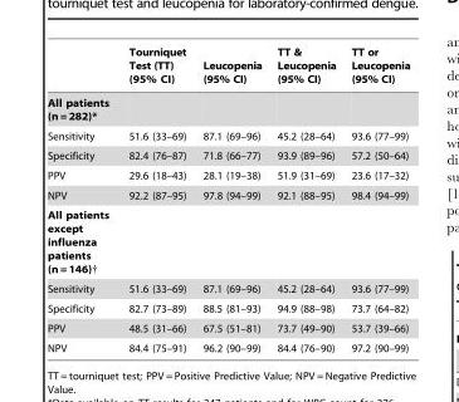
<table><thead><tr><td></td><td>Tourniquet Test (TT) (95% CI)</td><td>Leucopenia (95% CI)</td><td>TT &amp; Leucopenia (95% CI)</td><td>TT or Leucopenia (95% CI)</td></tr></thead><tbody><tr><td colspan="5">All patients (n = 282)*</td></tr><tr><td>Sensitivity</td><td>51.6 (33–69)</td><td>87.1 (69–96)</td><td>45.2 (28–64)</td><td>93.6 (77–99)</td></tr><tr><td>Specificity</td><td>82.4 (76–87)</td><td>71.8 (66–77)</td><td>93.9 (89–96)</td><td>57.2 (50–64)</td></tr><tr><td>PPV</td><td>29.6 (18–43)</td><td>28.1 (19–38)</td><td>51.9 (31–69)</td><td>23.6 (17–32)</td></tr><tr><td>NPV</td><td>92.2 (87–95)</td><td>97.8 (94–99)</td><td>92.1 (88–95)</td><td>98.4 (94–99)</td></tr><tr><td colspan="5">All patients except influenza patients (n = 146)†</td></tr><tr><td>Sensitivity</td><td>51.6 (33–69)</td><td>87.1 (69–96)</td><td>45.2 (28–64)</td><td>93.6 (77–99)</td></tr><tr><td>Specificity</td><td>82.7 (73–89)</td><td>88.5 (81–93)</td><td>94.9 (88–98)</td><td>73.7 (64–82)</td></tr><tr><td>PPV</td><td>48.5 (31–66)</td><td>67.5 (51–81)</td><td>73.7 (49–90)</td><td>53.7 (39–66)</td></tr><tr><td>NPV</td><td>84.4 (75–91)</td><td>96.2 (90–99)</td><td>84.4 (76–90)</td><td>97.2 (90–99)</td></tr></tbody></table>